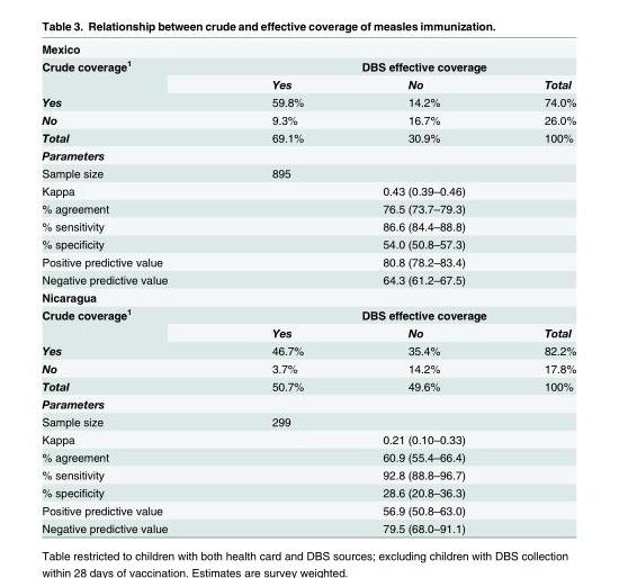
<table><tbody><tr><td colspan="4">Mexico</td></tr><tr><td rowspan="2">Crude coverage<sup>1</sup></td><td colspan="3">DBS effective coverage</td></tr><tr><td>Yes</td><td>No</td><td>Total</td></tr><tr><td>Yes</td><td>59.8%</td><td>14.2%</td><td>74.0%</td></tr><tr><td>No</td><td>9.3%</td><td>16.7%</td><td>26.0%</td></tr><tr><td>Total</td><td>69.1%</td><td>30.9%</td><td>100%</td></tr><tr><td colspan="4">Parameters</td></tr><tr><td>Sample size</td><td>895</td><td></td><td></td></tr><tr><td>Kappa</td><td colspan="3">0.43 (0.39–0.46)</td></tr><tr><td>% agreement</td><td colspan="3">76.5 (73.7–79.3)</td></tr><tr><td>% sensitivity</td><td colspan="3">86.6 (84.4–88.8)</td></tr><tr><td>% specificity</td><td colspan="3">54.0 (50.8–57.3)</td></tr><tr><td>Positive predictive value</td><td colspan="3">80.8 (78.2–83.4)</td></tr><tr><td>Negative predictive value</td><td colspan="3">64.3 (61.2–67.5)</td></tr><tr><td colspan="4">Nicaragua</td></tr><tr><td rowspan="2">Crude coverage<sup>1</sup></td><td colspan="3">DBS effective coverage</td></tr><tr><td>Yes</td><td>No</td><td>Total</td></tr><tr><td>Yes</td><td>46.7%</td><td>35.4%</td><td>82.2%</td></tr><tr><td>No</td><td>3.7%</td><td>14.2%</td><td>17.8%</td></tr><tr><td>Total</td><td>50.7%</td><td>49.6%</td><td>100%</td></tr><tr><td colspan="4">Parameters</td></tr><tr><td>Sample size</td><td>299</td><td></td><td></td></tr><tr><td>Kappa</td><td colspan="3">0.21 (0.10–0.33)</td></tr><tr><td>% agreement</td><td colspan="3">60.9 (55.4–66.4)</td></tr><tr><td>% sensitivity</td><td colspan="3">92.8 (88.8–96.7)</td></tr><tr><td>% specificity</td><td colspan="3">28.6 (20.8–36.3)</td></tr><tr><td>Positive predictive value</td><td colspan="3">56.9 (50.8–63.0)</td></tr><tr><td>Negative predictive value</td><td colspan="3">79.5 (68.0–91.1)</td></tr></tbody></table>